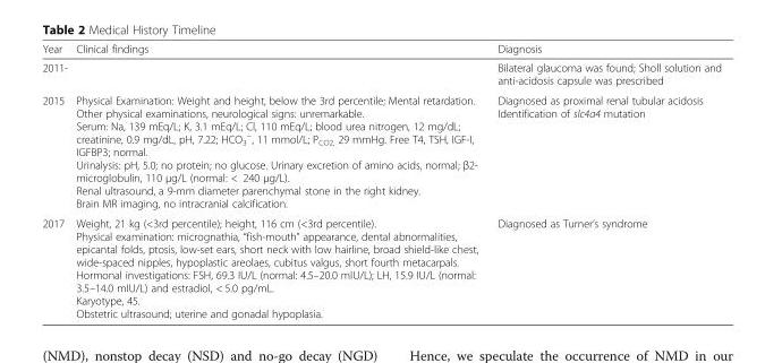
<table><thead><tr><td>Year</td><td>Clinical findings</td><td>Diagnosis</td></tr></thead><tbody><tr><td>2011-</td><td></td><td>Bilateral glaucoma was found; Sholl solution and anti-acidosis capsule was prescribed</td></tr><tr><td>2015</td><td>Physical Examination: Weight and height, below the 3rd percentile; Mental retardation. Other physical examinations, neurological signs: unremarkable. Serum: Na, 139 mEq/L; K, 3.1 mEq/L; Cl, 110 mEq/L; blood urea nitrogen, 12 mg/dL; creatinine, 0.9 mg/dL, pH, 7.22; HCO<sub>3</sub> <sup>−</sup>, 11 mmol/L; P<sub>CO2,</sub> 29 mmHg. Free T4, TSH, IGF-I, IGFBP3; normal. Urinalysis: pH, 5.0; no protein; no glucose. Urinary excretion of amino acids, normal; β2- microglobulin, 110 μg/L (normal: &lt; 240 μg/L). Renal ultrasound, a 9-mm diameter parenchymal stone in the right kidney. Brain MR imaging, no intracranial calcification.</td><td>Diagnosed as proximal renal tubular acidosis Identification of slc4a4 mutation</td></tr><tr><td>2017</td><td>Weight, 21 kg (&lt;3rd percentile); height, 116 cm (&lt;3rd percentile). Physical examination: micrognathia, “fish-mouth” appearance, dental abnormalities, epicantal folds, ptosis, low-set ears, short neck with low hairline, broad shield-like chest, wide-spaced nipples, hypoplastic areolaes, cubitus valgus, short fourth metacarpals. Hormonal investigations: FSH, 69.3 IU/L (normal: 4.5–20.0 mIU/L); LH, 15.9 IU/L (normal: 3.5–14.0 mIU/L) and estradiol, &lt; 5.0 pg/mL. Karyotype, 45. Obstetric ultrasound; uterine and gonadal hypoplasia.</td><td>Diagnosed as Turner’s syndrome</td></tr></tbody></table>